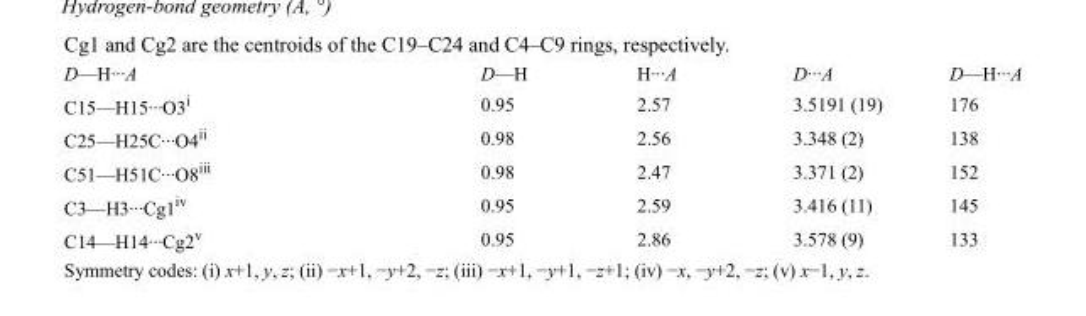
<table><tbody><tr><td>D—H···A</td><td>D—H</td><td>H···A</td><td>D···A</td><td>D—H···A</td></tr><tr><td>C15—H15···O3<sup>i</sup></td><td>0.95</td><td>2.57</td><td>3.5191 (19)</td><td>176</td></tr><tr><td>C25—H25C···O4<sup>ii</sup></td><td>0.98</td><td>2.56</td><td>3.348 (2)</td><td>138</td></tr><tr><td>C51—H51C···O8<sup>iii</sup></td><td>0.98</td><td>2.47</td><td>3.371 (2)</td><td>152</td></tr><tr><td>C3—H3···Cg1<sup>iv</sup></td><td>0.95</td><td>2.59</td><td>3.416 (11)</td><td>145</td></tr><tr><td>C14—H14···Cg2<sup>v</sup></td><td>0.95</td><td>2.86</td><td>3.578 (9)</td><td>133</td></tr></tbody></table>